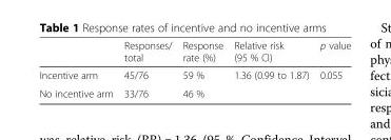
<table><thead><tr><td></td><td>Responses/ total</td><td>Response rate (%)</td><td>Relative risk (95 % CI)</td><td>p value</td></tr></thead><tbody><tr><td>Incentive arm</td><td>45/76</td><td>59 %</td><td rowspan="2">1.36 (0.99 to 1.87)</td><td rowspan="2">0.055</td></tr><tr><td>No incentive arm</td><td>33/76</td><td>46 %</td></tr></tbody></table>